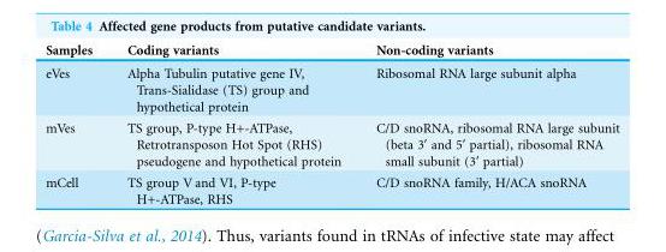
<table><thead><tr><td>Samples</td><td>Coding variants</td><td>Non-coding variants</td></tr></thead><tbody><tr><td>eVes</td><td>Alpha Tubulin putative gene IV, Trans-Sialidase (TS) group and hypothetical protein</td><td>Ribosomal RNA large subunit alpha</td></tr><tr><td>mVes</td><td>TS group, P-type H+-ATPase, Retrotransposon Hot Spot (RHS) pseudogene and hypothetical protein</td><td>C/D snoRNA, ribosomal RNA large subunit (beta 3′ and 5′ partial), ribosomal RNA small subunit (3′ partial)</td></tr><tr><td>mCell</td><td>TS group V and VI, P-type H+-ATPase, RHS</td><td>C/D snoRNA family, H/ACA snoRNA</td></tr></tbody></table>